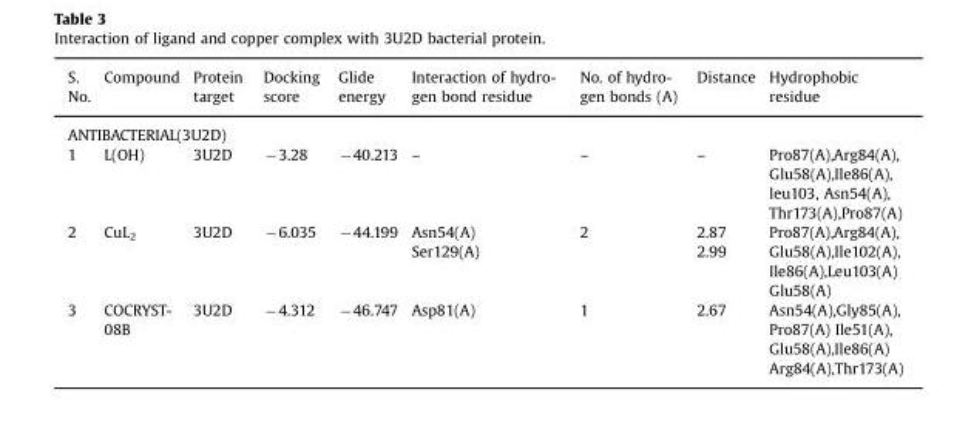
<table><thead><tr><td>S. No.</td><td>Compound</td><td>Protein target</td><td>Docking score</td><td>Glide energy</td><td>Interaction of hydro- gen bond residue</td><td>No. of hydro- gen bonds (A)</td><td>Distance</td><td>Hydrophobic residue</td></tr></thead><tbody><tr><td colspan="9">ANTIBACTERIAL(3U2D)</td></tr><tr><td rowspan="3">1</td><td rowspan="3">L(OH)</td><td rowspan="3">3U2D</td><td rowspan="3">−3.28</td><td rowspan="3">−40.213</td><td rowspan="3">–</td><td rowspan="3">–</td><td rowspan="3">–</td><td>Pro87(A),Arg84(A), Glu58(A),Ile86(A),</td></tr><tr><td>leu103, Asn54(A),</td></tr><tr><td>Thr173(A),Pro87(A)</td></tr><tr><td rowspan="4">2</td><td rowspan="4">CuL<sub>2</sub></td><td rowspan="4">3U2D</td><td rowspan="4">−6.035</td><td rowspan="4">−44.199</td><td>Asn54(A)</td><td rowspan="4">2</td><td>2.87</td><td>Pro87(A),Arg84(A),</td></tr><tr><td rowspan="3">Ser129(A)</td><td rowspan="3">2.99</td><td>Glu58(A),Ile102(A),</td></tr><tr><td>Ile86(A),Leu103(A)</td></tr><tr><td>Glu58(A)</td></tr><tr><td rowspan="4">3</td><td rowspan="4">COCRYST- 08B</td><td rowspan="4">3U2D</td><td rowspan="4">−4.312</td><td rowspan="4">−46.747</td><td rowspan="4">Asp81(A)</td><td rowspan="4">1</td><td rowspan="4">2.67</td><td>Asn54(A),Gly85(A),</td></tr><tr><td>Pro87(A) Ile51(A),</td></tr><tr><td>Glu58(A),Ile86(A)</td></tr><tr><td>Arg84(A),Thr173(A)</td></tr></tbody></table>